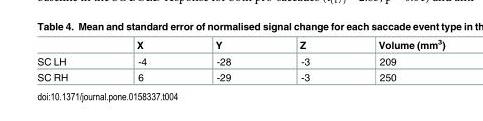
<table><thead><tr><td></td><td>X</td><td>Y</td><td>Z</td><td>Volume (mm<sup>3</sup>)</td></tr></thead><tbody><tr><td>SC LH</td><td>-4</td><td>-28</td><td>-3</td><td>209</td></tr><tr><td>SC RH</td><td>6</td><td>-29</td><td>-3</td><td>250</td></tr></tbody></table>